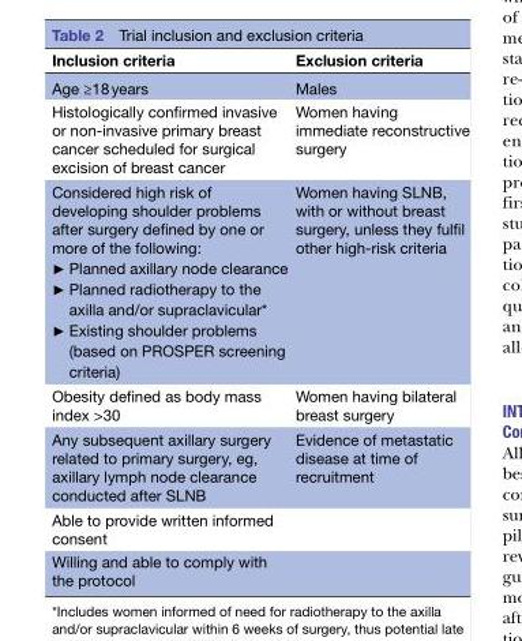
<table><thead><tr><td>Inclusion criteria</td><td>Exclusion criteria</td></tr></thead><tbody><tr><td>Age ≥18 years</td><td>Males</td></tr><tr><td>Histologically confirmed invasive or non-invasive primary breast cancer scheduled for surgical excision of breast cancer</td><td>Women having immediate reconstructive surgery</td></tr><tr><td>Considered high risk of developing shoulder problems after surgery defined by one or more of the following: ► Planned axillary node clearance ► Planned radiotherapy to the axilla and/or supraclavicular* ► Existing shoulder problems (based on PROSPER screening criteria)</td><td>Women having SLNB, with or without breast surgery, unless they fulfil other high-risk criteria</td></tr><tr><td>Obesity defined as body mass index &gt;30</td><td>Women having bilateral breast surgery</td></tr><tr><td>Any subsequent axillary surgery related to primary surgery, eg, axillary lymph node clearance conducted after SLNB</td><td>Evidence of metastatic disease at time of recruitment</td></tr><tr><td colspan="2">Able to provide written informed consent</td></tr><tr><td>Willing and able to comply with the protocol</td><td></td></tr></tbody></table>